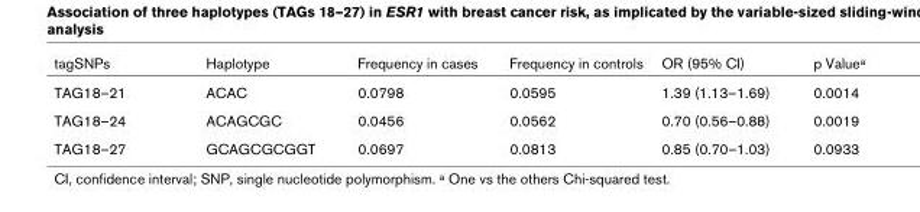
<table><thead><tr><td>tagSNPs</td><td>Haplotype</td><td>Frequency in cases</td><td>Frequency in controls</td><td>OR (95% CI)</td><td>p Value<sup>a</sup></td></tr></thead><tbody><tr><td>TAG18–21</td><td>ACAC</td><td>0.0798</td><td>0.0595</td><td>1.39 (1.13–1.69)</td><td>0.0014</td></tr><tr><td>TAG18–24</td><td>ACAGCGC</td><td>0.0456</td><td>0.0562</td><td>0.70 (0.56–0.88)</td><td>0.0019</td></tr><tr><td>TAG18–27</td><td>GCAGCGCGGT</td><td>0.0697</td><td>0.0813</td><td>0.85 (0.70–1.03)</td><td>0.0933</td></tr></tbody></table>